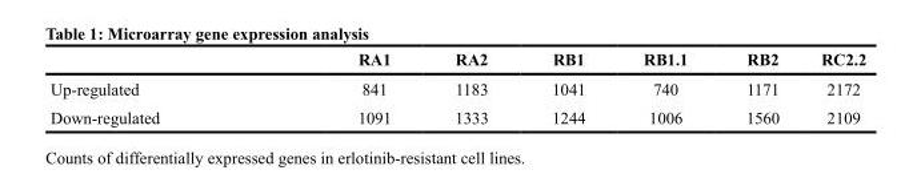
<table><thead><tr><td></td><td>RA1</td><td>RA2</td><td>RB1</td><td>RB1.1</td><td>RB2</td><td>RC2.2</td></tr></thead><tbody><tr><td>Up-regulated</td><td>841</td><td>1183</td><td>1041</td><td>740</td><td>1171</td><td>2172</td></tr><tr><td>Down-regulated</td><td>1091</td><td>1333</td><td>1244</td><td>1006</td><td>1560</td><td>2109</td></tr></tbody></table>